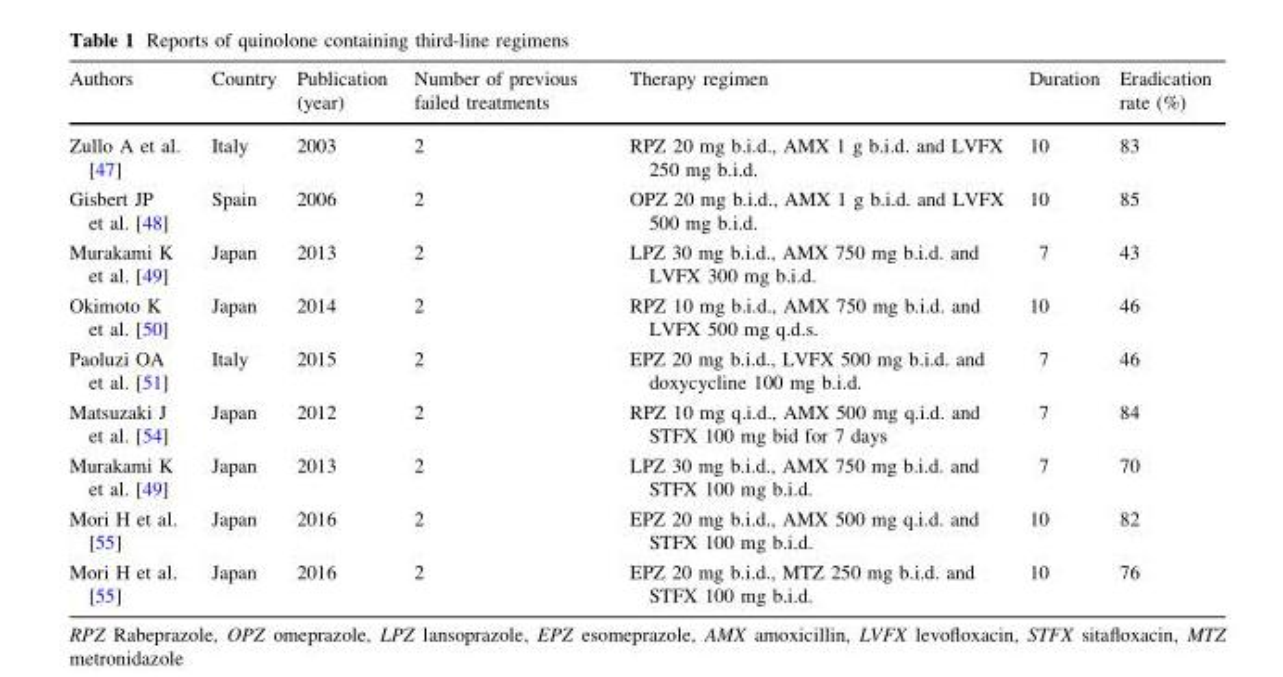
<table><thead><tr><td>Authors</td><td>Country</td><td>Publication (year)</td><td>Number of previous failed treatments</td><td>Therapy regimen</td><td>Duration</td><td>Eradication rate (%)</td></tr></thead><tbody><tr><td>Zullo A et al. [47]</td><td>Italy</td><td>2003</td><td>2</td><td>RPZ 20 mg b.i.d., AMX 1 g b.i.d. and LVFX 250 mg b.i.d.</td><td>10</td><td>83</td></tr><tr><td>Gisbert JP et al. [48]</td><td>Spain</td><td>2006</td><td>2</td><td>OPZ 20 mg b.i.d., AMX 1 g b.i.d. and LVFX 500 mg b.i.d.</td><td>10</td><td>85</td></tr><tr><td>Murakami K et al. [49]</td><td>Japan</td><td>2013</td><td>2</td><td>LPZ 30 mg b.i.d., AMX 750 mg b.i.d. and LVFX 300 mg b.i.d.</td><td>7</td><td>43</td></tr><tr><td>Okimoto K et al. [50]</td><td>Japan</td><td>2014</td><td>2</td><td>RPZ 10 mg b.i.d., AMX 750 mg b.i.d. and LVFX 500 mg q.d.s.</td><td>10</td><td>46</td></tr><tr><td>Paoluzi OA et al. [51]</td><td>Italy</td><td>2015</td><td>2</td><td>EPZ 20 mg b.i.d., LVFX 500 mg b.i.d. and doxycycline 100 mg b.i.d.</td><td>7</td><td>46</td></tr><tr><td>Matsuzaki J et al. [54]</td><td>Japan</td><td>2012</td><td>2</td><td>RPZ 10 mg q.i.d., AMX 500 mg q.i.d. and STFX 100 mg bid for 7 days</td><td>7</td><td>84</td></tr><tr><td>Murakami K et al. [49]</td><td>Japan</td><td>2013</td><td>2</td><td>LPZ 30 mg b.i.d., AMX 750 mg b.i.d. and STFX 100 mg b.i.d.</td><td>7</td><td>70</td></tr><tr><td>Mori H et al. [55]</td><td>Japan</td><td>2016</td><td>2</td><td>EPZ 20 mg b.i.d., AMX 500 mg q.i.d. and STFX 100 mg b.i.d.</td><td>10</td><td>82</td></tr><tr><td>Mori H et al. [55]</td><td>Japan</td><td>2016</td><td>2</td><td>EPZ 20 mg b.i.d., MTZ 250 mg b.i.d. and STFX 100 mg b.i.d.</td><td>10</td><td>76</td></tr></tbody></table>